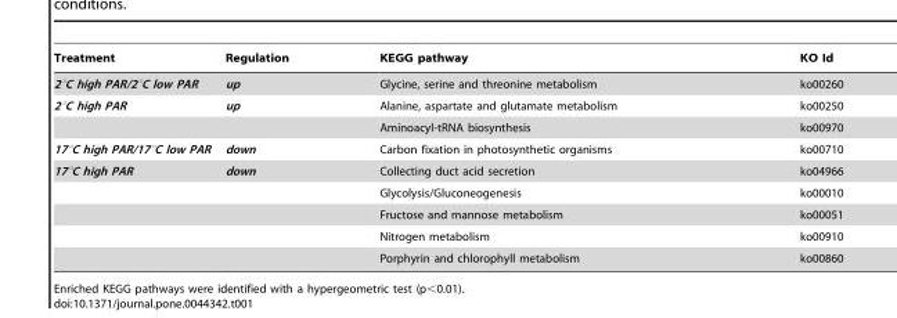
<table><thead><tr><td>Treatment</td><td>Regulation</td><td>KEGG pathway</td><td>KO Id</td></tr></thead><tbody><tr><td>2°C high PAR/2°C low PAR</td><td>up</td><td>Glycine, serine and threonine metabolism</td><td>ko00260</td></tr><tr><td rowspan="2">2°C high PAR</td><td>up</td><td>Alanine, aspartate and glutamate metabolism</td><td>ko00250</td></tr><tr><td></td><td>Aminoacyl-tRNA biosynthesis</td><td>ko00970</td></tr><tr><td>17°C high PAR/17°C low PAR</td><td>down</td><td>Carbon fixation in photosynthetic organisms</td><td>ko00710</td></tr><tr><td rowspan="5">17°C high PAR</td><td>down</td><td>Collecting duct acid secretion</td><td>ko04966</td></tr><tr><td></td><td>Glycolysis/Gluconeogenesis</td><td>ko00010</td></tr><tr><td></td><td>Fructose and mannose metabolism</td><td>ko00051</td></tr><tr><td></td><td>Nitrogen metabolism</td><td>ko00910</td></tr><tr><td></td><td>Porphyrin and chlorophyll metabolism</td><td>ko00860</td></tr></tbody></table>